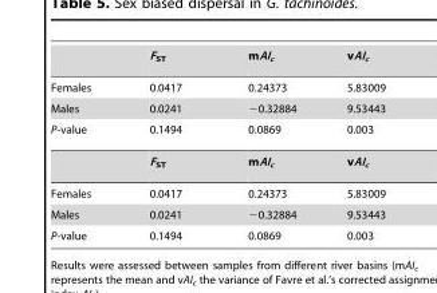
<table><thead><tr><td></td><td>F<sub>ST</sub></td><td>mAI<sub>c</sub></td><td>vAI<sub>c</sub></td></tr></thead><tbody><tr><td>Females</td><td>0.0417</td><td>0.24373</td><td>5.83009</td></tr><tr><td>Males</td><td>0.0241</td><td>−0.32884</td><td>9.53443</td></tr><tr><td rowspan="2">P-value</td><td>0.1494</td><td>0.0869</td><td>0.003</td></tr><tr><td>F<sub>ST</sub></td><td>mAI<sub>c</sub></td><td>vAI<sub>c</sub></td></tr><tr><td>Females</td><td>0.0417</td><td>0.24373</td><td>5.83009</td></tr><tr><td>Males</td><td>0.0241</td><td>−0.32884</td><td>9.53443</td></tr><tr><td>P-value</td><td>0.1494</td><td>0.0869</td><td>0.003</td></tr></tbody></table>